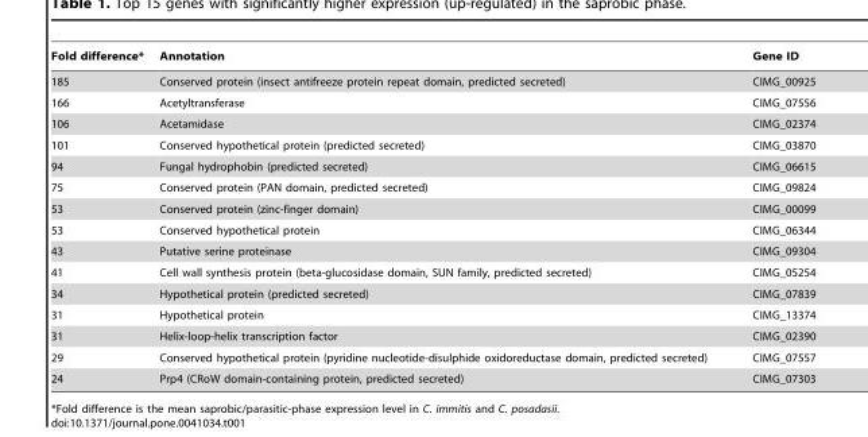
<table><thead><tr><td>Fold difference*</td><td>Annotation</td><td>Gene ID</td></tr></thead><tbody><tr><td>185</td><td>Conserved protein (insect antifreeze protein repeat domain, predicted secreted)</td><td>CIMG_00925</td></tr><tr><td>166</td><td>Acetyltransferase</td><td>CIMG_07556</td></tr><tr><td>106</td><td>Acetamidase</td><td>CIMG_02374</td></tr><tr><td>101</td><td>Conserved hypothetical protein (predicted secreted)</td><td>CIMG_03870</td></tr><tr><td>94</td><td>Fungal hydrophobin (predicted secreted)</td><td>CIMG_06615</td></tr><tr><td>75</td><td>Conserved protein (PAN domain, predicted secreted)</td><td>CIMG_09824</td></tr><tr><td>53</td><td>Conserved protein (zinc-finger domain)</td><td>CIMG_00099</td></tr><tr><td>53</td><td>Conserved hypothetical protein</td><td>CIMG_06344</td></tr><tr><td>43</td><td>Putative serine proteinase</td><td>CIMG_09304</td></tr><tr><td>41</td><td>Cell wall synthesis protein (beta-glucosidase domain, SUN family, predicted secreted)</td><td>CIMG_05254</td></tr><tr><td>34</td><td>Hypothetical protein (predicted secreted)</td><td>CIMG_07839</td></tr><tr><td>31</td><td>Hypothetical protein</td><td>CIMG_13374</td></tr><tr><td>31</td><td>Helix-loop-helix transcription factor</td><td>CIMG_02390</td></tr><tr><td>29</td><td>Conserved hypothetical protein (pyridine nucleotide-disulphide oxidoreductase domain, predicted secreted)</td><td>CIMG_07557</td></tr><tr><td>24</td><td>Prp4 (CRoW domain-containing protein, predicted secreted)</td><td>CIMG_07303</td></tr></tbody></table>